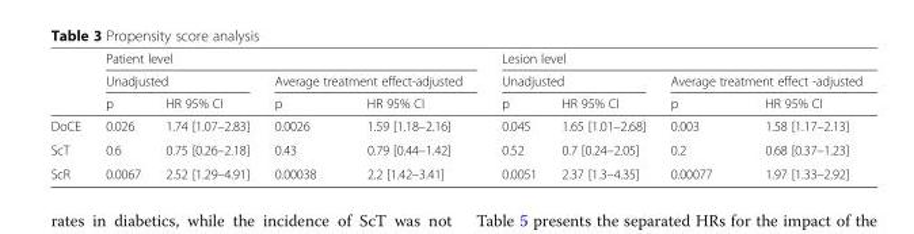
<table><thead><tr><td rowspan="3"></td><td colspan="4">Patient level</td><td colspan="4">Lesion level</td></tr><tr><td colspan="2">Unadjusted</td><td colspan="2">Average treatment effect-adjusted</td><td colspan="2">Unadjusted</td><td colspan="2">Average treatment effect -adjusted</td></tr><tr><td>p</td><td>HR 95% CI</td><td>p</td><td>HR 95% CI</td><td>p</td><td>HR 95% CI</td><td>p</td><td>HR 95% CI</td></tr></thead><tbody><tr><td>DoCE</td><td>0.026</td><td>1.74 [1.07–2.83]</td><td>0.0026</td><td>1.59 [1.18–2.16]</td><td>0.045</td><td>1.65 [1.01–2.68]</td><td>0.003</td><td>1.58 [1.17–2.13]</td></tr><tr><td>ScT</td><td>0.6</td><td>0.75 [0.26–2.18]</td><td>0.43</td><td>0.79 [0.44–1.42]</td><td>0.52</td><td>0.7 [0.24–2.05]</td><td>0.2</td><td>0.68 [0.37–1.23]</td></tr><tr><td>ScR</td><td>0.0067</td><td>2.52 [1.29–4.91]</td><td>0.00038</td><td>2.2 [1.42–3.41]</td><td>0.0051</td><td>2.37 [1.3–4.35]</td><td>0.00077</td><td>1.97 [1.33–2.92]</td></tr></tbody></table>